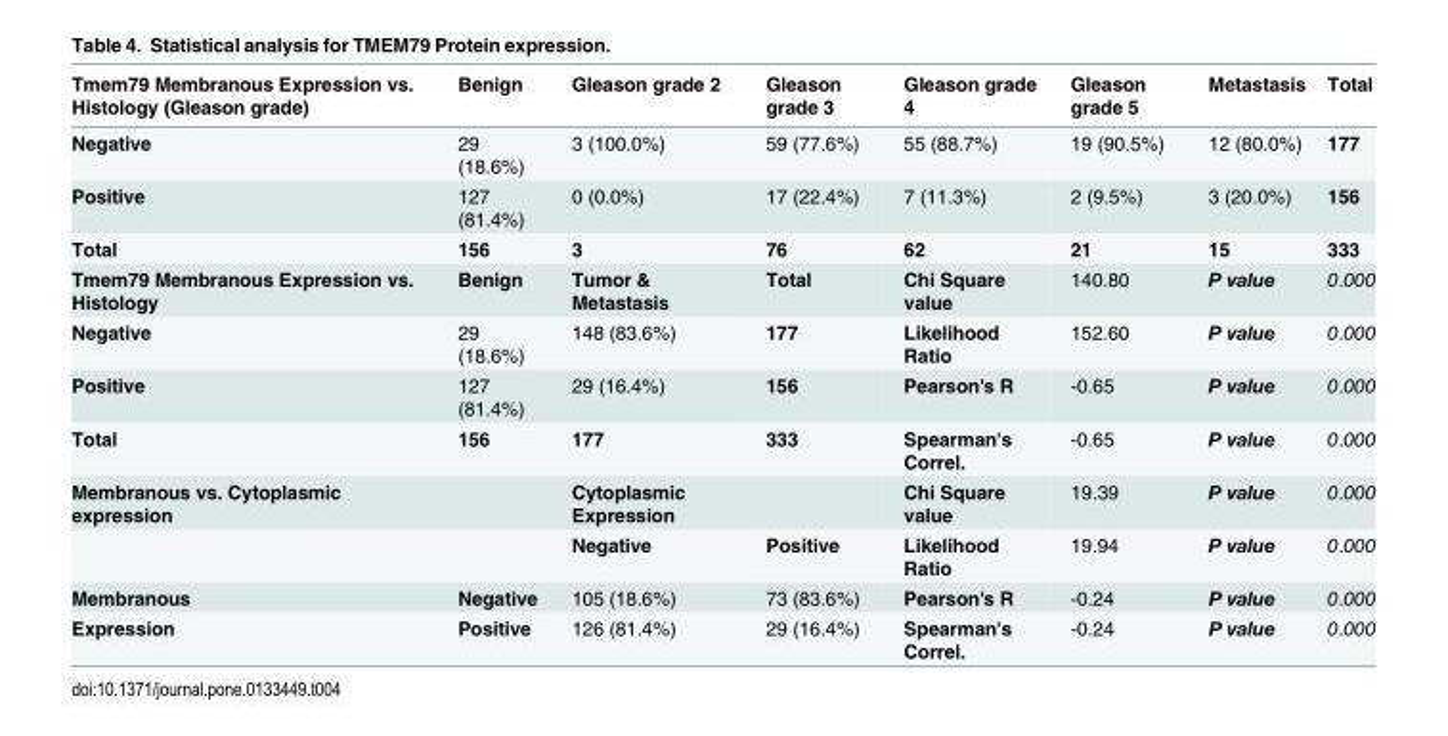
<table><thead><tr><td>Tmem79 Membranous Expression vs. Histology (Gleason grade)</td><td>Benign</td><td>Gleason grade 2</td><td>Gleason grade 3</td><td>Gleason grade 4</td><td>Gleason grade 5</td><td>Metastasis</td><td>Total</td></tr></thead><tbody><tr><td>Negative</td><td>29 (18.6%)</td><td>3 (100.0%)</td><td>59 (77.6%)</td><td>55 (88.7%)</td><td>19 (90.5%)</td><td>12 (80.0%)</td><td>177</td></tr><tr><td>Positive</td><td>127 (81.4%)</td><td>0 (0.0%)</td><td>17 (22.4%)</td><td>7 (11.3%)</td><td>2 (9.5%)</td><td>3 (20.0%)</td><td>156</td></tr><tr><td>Total</td><td>156</td><td>3</td><td>76</td><td>62</td><td>21</td><td>15</td><td>333</td></tr><tr><td>Tmem79 Membranous Expression vs. Histology</td><td>Benign</td><td>Tumor &amp; Metastasis</td><td>Total</td><td>Chi Square value</td><td>140.80</td><td>P value</td><td>0.000</td></tr><tr><td>Negative</td><td>29 (18.6%)</td><td>148 (83.6%)</td><td>177</td><td>Likelihood Ratio</td><td>152.60</td><td>P value</td><td>0.000</td></tr><tr><td>Positive</td><td>127 (81.4%)</td><td>29 (16.4%)</td><td>156</td><td>Pearson&#x27;s R</td><td>-0.65</td><td>P value</td><td>0.000</td></tr><tr><td>Total</td><td>156</td><td>177</td><td>333</td><td>Spearman&#x27;s Correl.</td><td>-0.65</td><td>P value</td><td>0.000</td></tr><tr><td rowspan="2">Membranous vs. Cytoplasmic expression</td><td></td><td>Cytoplasmic Expression</td><td></td><td>Chi Square value</td><td>19.39</td><td>P value</td><td>0.000</td></tr><tr><td></td><td>Negative</td><td>Positive</td><td>Likelihood Ratio</td><td>19.94</td><td>P value</td><td>0.000</td></tr><tr><td>Membranous</td><td>Negative</td><td>105 (18.6%)</td><td>73 (83.6%)</td><td>Pearson&#x27;s R</td><td>-0.24</td><td>P value</td><td>0.000</td></tr><tr><td>Expression</td><td>Positive</td><td>126 (81.4%)</td><td>29 (16.4%)</td><td>Spearman&#x27;s Correl.</td><td>-0.24</td><td>P value</td><td>0.000</td></tr></tbody></table>